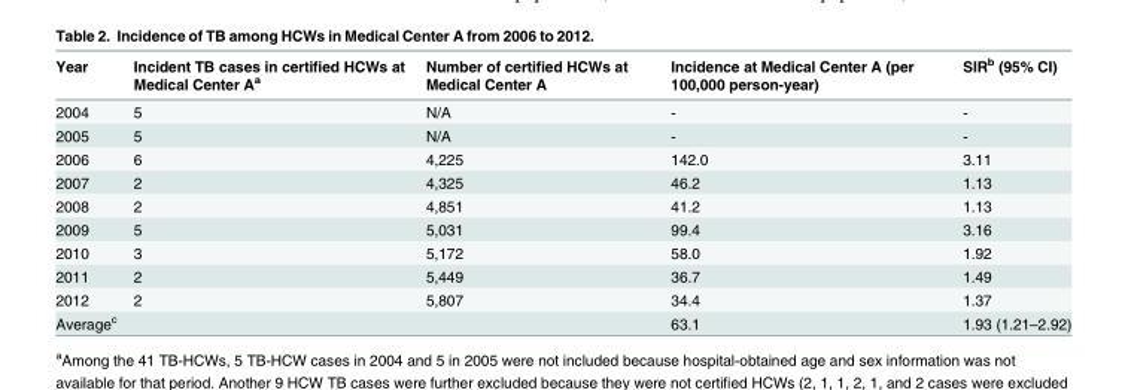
<table><thead><tr><td>Year</td><td>Incident TB cases in certified HCWs at Medical Center A<sup>a</sup></td><td>Number of certified HCWs at Medical Center A</td><td>Incidence at Medical Center A (per 100,000 person-year)</td><td>SIR<sup>b</sup> (95% CI)</td></tr></thead><tbody><tr><td>2004</td><td>5</td><td>N/A</td><td>-</td><td>-</td></tr><tr><td>2005</td><td>5</td><td>N/A</td><td>-</td><td>-</td></tr><tr><td>2006</td><td>6</td><td>4,225</td><td>142.0</td><td>3.11</td></tr><tr><td>2007</td><td>2</td><td>4,325</td><td>46.2</td><td>1.13</td></tr><tr><td>2008</td><td>2</td><td>4,851</td><td>41.2</td><td>1.13</td></tr><tr><td>2009</td><td>5</td><td>5,031</td><td>99.4</td><td>3.16</td></tr><tr><td>2010</td><td>3</td><td>5,172</td><td>58.0</td><td>1.92</td></tr><tr><td>2011</td><td>2</td><td>5,449</td><td>36.7</td><td>1.49</td></tr><tr><td>2012</td><td>2</td><td>5,807</td><td>34.4</td><td>1.37</td></tr><tr><td>Average<sup>c</sup></td><td></td><td></td><td>63.1</td><td>1.93 (1.21–2.92)</td></tr></tbody></table>